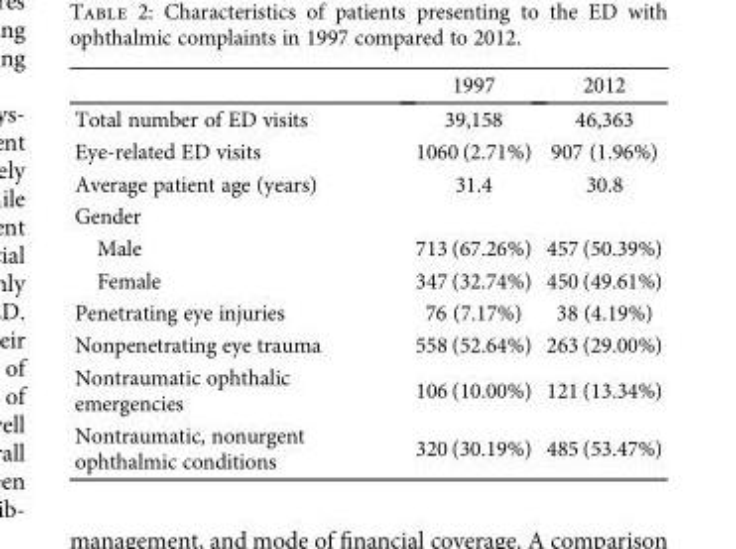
<table><thead><tr><td></td><td>1997</td><td>2012</td></tr></thead><tbody><tr><td>Total number of ED visits</td><td>39,158</td><td>46,363</td></tr><tr><td>Eye-related ED visits</td><td>1060 (2.71%)</td><td>907 (1.96%)</td></tr><tr><td>Average patient age (years)</td><td>31.4</td><td>30.8</td></tr><tr><td colspan="3">Gender</td></tr><tr><td>Male</td><td>713 (67.26%)</td><td>457 (50.39%)</td></tr><tr><td>Female</td><td>347 (32.74%)</td><td>450 (49.61%)</td></tr><tr><td>Penetrating eye injuries</td><td>76 (7.17%)</td><td>38 (4.19%)</td></tr><tr><td>Nonpenetrating eye trauma</td><td>558 (52.64%)</td><td>263 (29.00%)</td></tr><tr><td>Nontraumatic ophthalic emergencies</td><td>106 (10.00%)</td><td>121 (13.34%)</td></tr><tr><td>Nontraumatic, nonurgent ophthalmic conditions</td><td>320 (30.19%)</td><td>485 (53.47%)</td></tr></tbody></table>